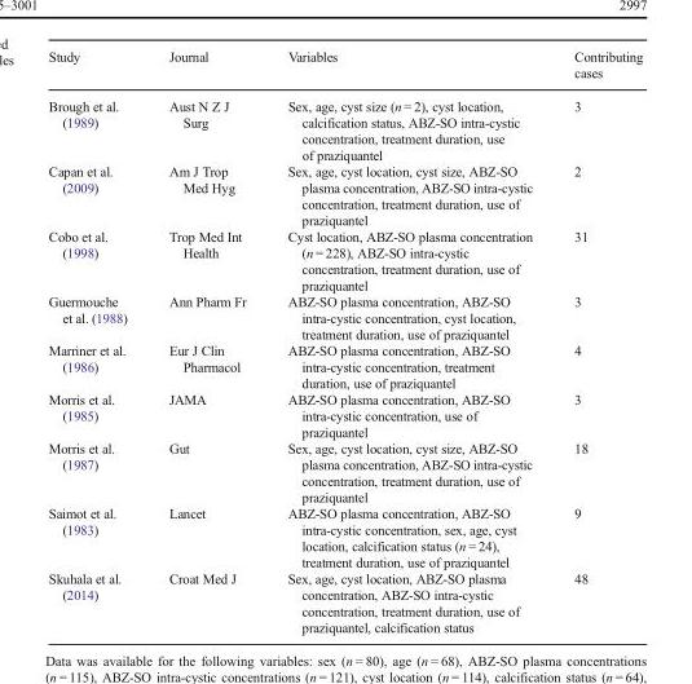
<table><thead><tr><td>Study</td><td>Journal</td><td>Variables</td><td>Contributing cases</td></tr></thead><tbody><tr><td>Brough et al. (1989)</td><td>Aust N Z J Surg</td><td>Sex, age, cyst size (n = 2), cyst location, calcification status, ABZ-SO intra-cystic concentration, treatment duration, use of praziquantel</td><td>3</td></tr><tr><td>Capan et al. (2009)</td><td>Am J Trop Med Hyg</td><td>Sex, age, cyst location, cyst size, ABZ-SO plasma concentration, ABZ-SO intra-cystic concentration, treatment duration, use of praziquantel</td><td>2</td></tr><tr><td>Cobo et al. (1998)</td><td>Trop Med Int Health</td><td>Cyst location, ABZ-SO plasma concentration (n = 228), ABZ-SO intra-cystic concentration, treatment duration, use of praziquantel</td><td>31</td></tr><tr><td>Guermouche et al. (1988)</td><td>Ann Pharm Fr</td><td>ABZ-SO plasma concentration, ABZ-SO intra-cystic concentration, cyst location, treatment duration, use of praziquantel</td><td>3</td></tr><tr><td>Marriner et al. (1986)</td><td>Eur J Clin Pharmacol</td><td>ABZ-SO plasma concentration, ABZ-SO intra-cystic concentration, treatment duration, use of praziquantel</td><td>4</td></tr><tr><td>Morris et al. (1985)</td><td>JAMA</td><td>ABZ-SO plasma concentration, ABZ-SO intra-cystic concentration, use of praziquantel</td><td>3</td></tr><tr><td>Morris et al. (1987)</td><td>Gut</td><td>Sex, age, cyst location, cyst size, ABZ-SO plasma concentration, ABZ-SO intra-cystic concentration, treatment duration, use of praziquantel</td><td>18</td></tr><tr><td>Saimot et al. (1983)</td><td>Lancet</td><td>ABZ-SO plasma concentration, ABZ-SO intra-cystic concentration, sex, age, cyst location, calcification status (n = 24), treatment duration, use of praziquantel</td><td>9</td></tr><tr><td>Skuhala et al. (2014)</td><td>Croat Med J</td><td>Sex, age, cyst location, ABZ-SO plasma concentration, ABZ-SO intra-cystic concentration, treatment duration, use of praziquantel, calcification status</td><td>48</td></tr></tbody></table>